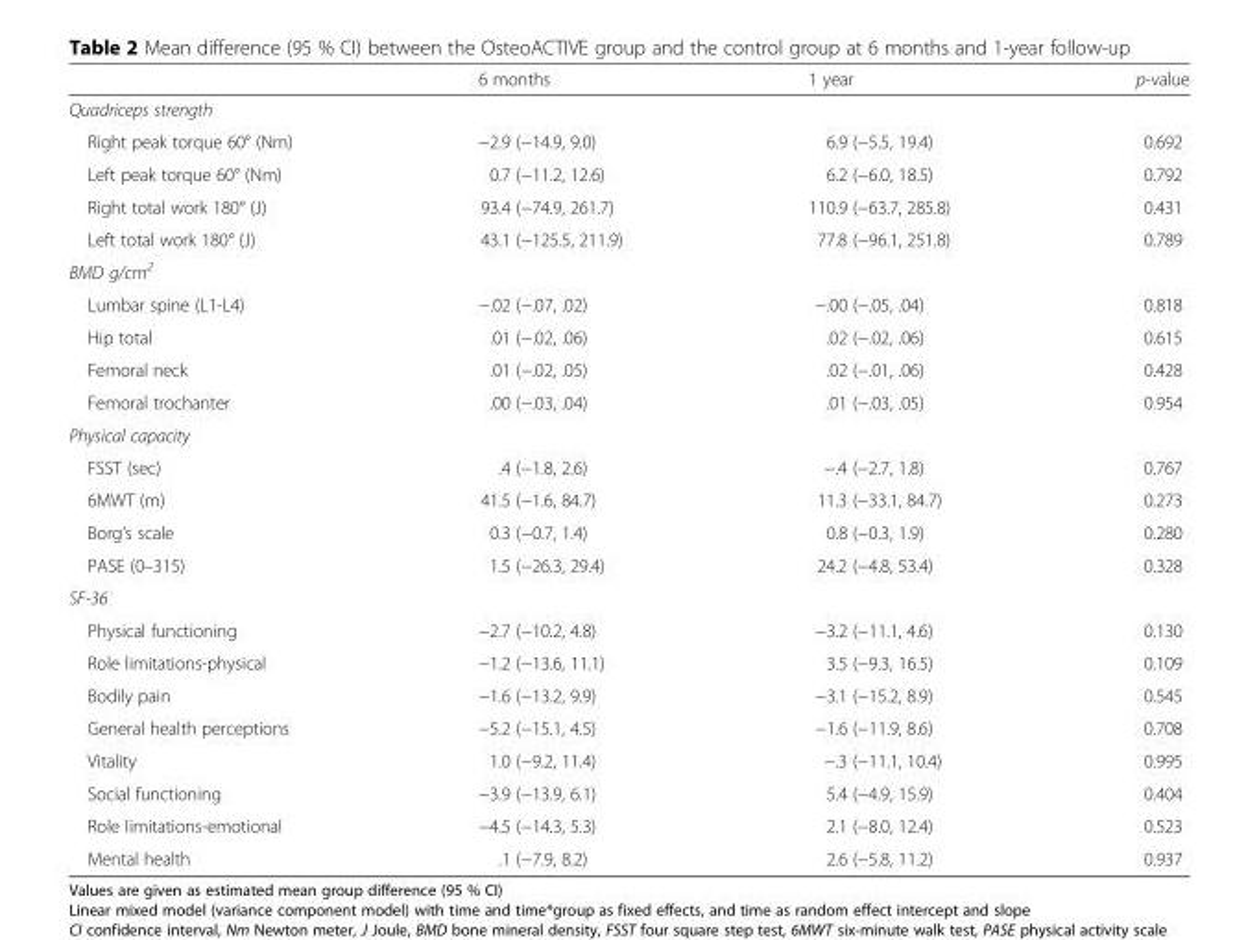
<table><thead><tr><td></td><td>6 months</td><td>1 year</td><td>p-value</td></tr></thead><tbody><tr><td colspan="4">Quadriceps strength</td></tr><tr><td>Right peak torque 60° (Nm)</td><td>−2.9 (−14.9, 9.0)</td><td>6.9 (−5.5, 19.4)</td><td>0.692</td></tr><tr><td>Left peak torque 60° (Nm)</td><td>0.7 (−11.2, 12.6)</td><td>6.2 (−6.0, 18.5)</td><td>0.792</td></tr><tr><td>Right total work 180° (J)</td><td>93.4 (−74.9, 261.7)</td><td>110.9 (−63.7, 285.8)</td><td>0.431</td></tr><tr><td>Left total work 180° (J)</td><td>43.1 (−125.5, 211.9)</td><td>77.8 (−96.1, 251.8)</td><td>0.789</td></tr><tr><td colspan="4">BMD g/cm<sup>2</sup></td></tr><tr><td>Lumbar spine (L1-L4)</td><td>−.02 (−.07, .02)</td><td>−.00 (−.05, .04)</td><td>0.818</td></tr><tr><td>Hip total</td><td>.01 (−.02, .06)</td><td>.02 (−.02, .06)</td><td>0.615</td></tr><tr><td>Femoral neck</td><td>.01 (−.02, .05)</td><td>.02 (−.01, .06)</td><td>0.428</td></tr><tr><td>Femoral trochanter</td><td>.00 (−.03, .04)</td><td>.01 (−.03, .05)</td><td>0.954</td></tr><tr><td colspan="4">Physical capacity</td></tr><tr><td>FSST (sec)</td><td>.4 (−1.8, 2.6)</td><td>−.4 (−2.7, 1.8)</td><td>0.767</td></tr><tr><td>6MWT (m)</td><td>41.5 (−1.6, 84.7)</td><td>11.3 (−33.1, 84.7)</td><td>0.273</td></tr><tr><td>Borg’s scale</td><td>0.3 (−0.7, 1.4)</td><td>0.8 (−0.3, 1.9)</td><td>0.280</td></tr><tr><td>PASE (0–315)</td><td>1.5 (−26.3, 29.4)</td><td>24.2 (−4.8, 53.4)</td><td>0.328</td></tr><tr><td colspan="4">SF-36</td></tr><tr><td>Physical functioning</td><td>−2.7 (−10.2, 4.8)</td><td>−3.2 (−11.1, 4.6)</td><td>0.130</td></tr><tr><td>Role limitations-physical</td><td>−1.2 (−13.6, 11.1)</td><td>3.5 (−9.3, 16.5)</td><td>0.109</td></tr><tr><td>Bodily pain</td><td>−1.6 (−13.2, 9.9)</td><td>−3.1 (−15.2, 8.9)</td><td>0.545</td></tr><tr><td>General health perceptions</td><td>−5.2 (−15.1, 4.5)</td><td>−1.6 (−11.9, 8.6)</td><td>0.708</td></tr><tr><td>Vitality</td><td>1.0 (−9.2, 11.4)</td><td>−.3 (−11.1, 10.4)</td><td>0.995</td></tr><tr><td>Social functioning</td><td>−3.9 (−13.9, 6.1)</td><td>5.4 (−4.9, 15.9)</td><td>0.404</td></tr><tr><td>Role limitations-emotional</td><td>−4.5 (−14.3, 5.3)</td><td>2.1 (−8.0, 12.4)</td><td>0.523</td></tr><tr><td>Mental health</td><td>.1 (−7.9, 8.2)</td><td>2.6 (−5.8, 11.2)</td><td>0.937</td></tr></tbody></table>